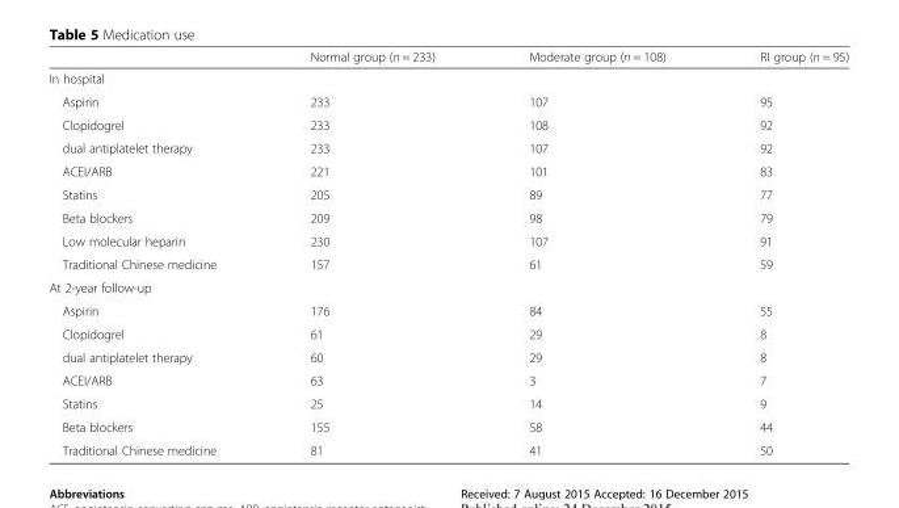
<table><thead><tr><td></td><td>Normal group (n = 233)</td><td>Moderate group (n = 108)</td><td>RI group (n = 95)</td></tr></thead><tbody><tr><td colspan="4">In hospital</td></tr><tr><td>Aspirin</td><td>233</td><td>107</td><td>95</td></tr><tr><td>Clopidogrel</td><td>233</td><td>108</td><td>92</td></tr><tr><td>dual antiplatelet therapy</td><td>233</td><td>107</td><td>92</td></tr><tr><td>ACEI/ARB</td><td>221</td><td>101</td><td>83</td></tr><tr><td>Statins</td><td>205</td><td>89</td><td>77</td></tr><tr><td>Beta blockers</td><td>209</td><td>98</td><td>79</td></tr><tr><td>Low molecular heparin</td><td>230</td><td>107</td><td>91</td></tr><tr><td>Traditional Chinese medicine</td><td>157</td><td>61</td><td>59</td></tr><tr><td colspan="4">At 2-year follow-up</td></tr><tr><td>Aspirin</td><td>176</td><td>84</td><td>55</td></tr><tr><td>Clopidogrel</td><td>61</td><td>29</td><td>8</td></tr><tr><td>dual antiplatelet therapy</td><td>60</td><td>29</td><td>8</td></tr><tr><td>ACEI/ARB</td><td>63</td><td>3</td><td>7</td></tr><tr><td>Statins</td><td>25</td><td>14</td><td>9</td></tr><tr><td>Beta blockers</td><td>155</td><td>58</td><td>44</td></tr><tr><td>Traditional Chinese medicine</td><td>81</td><td>41</td><td>50</td></tr></tbody></table>